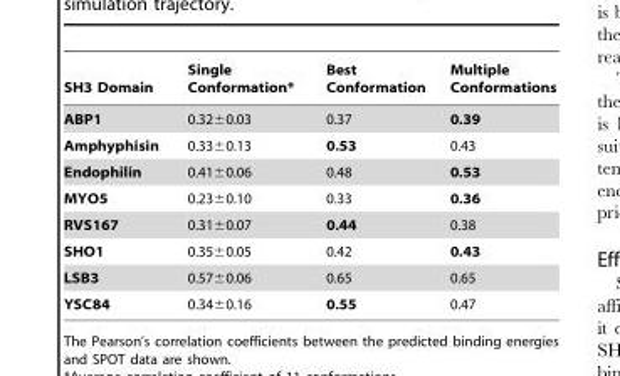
<table><thead><tr><td>SH3 Domain</td><td>Single Conformation*</td><td>Best Conformation</td><td>Multiple Conformations</td></tr></thead><tbody><tr><td>ABP1</td><td>0.32±0.03</td><td>0.37</td><td>0.39</td></tr><tr><td>Amphyphisin</td><td>0.33±0.13</td><td>0.53</td><td>0.43</td></tr><tr><td>Endophilin</td><td>0.41±0.06</td><td>0.48</td><td>0.53</td></tr><tr><td>MYO5</td><td>0.23±0.10</td><td>0.33</td><td>0.36</td></tr><tr><td>RVS167</td><td>0.31±0.07</td><td>0.44</td><td>0.38</td></tr><tr><td>SHO1</td><td>0.35±0.05</td><td>0.42</td><td>0.43</td></tr><tr><td>LSB3</td><td>0.57±0.06</td><td>0.65</td><td>0.65</td></tr><tr><td>YSC84</td><td>0.34±0.16</td><td>0.55</td><td>0.47</td></tr></tbody></table>